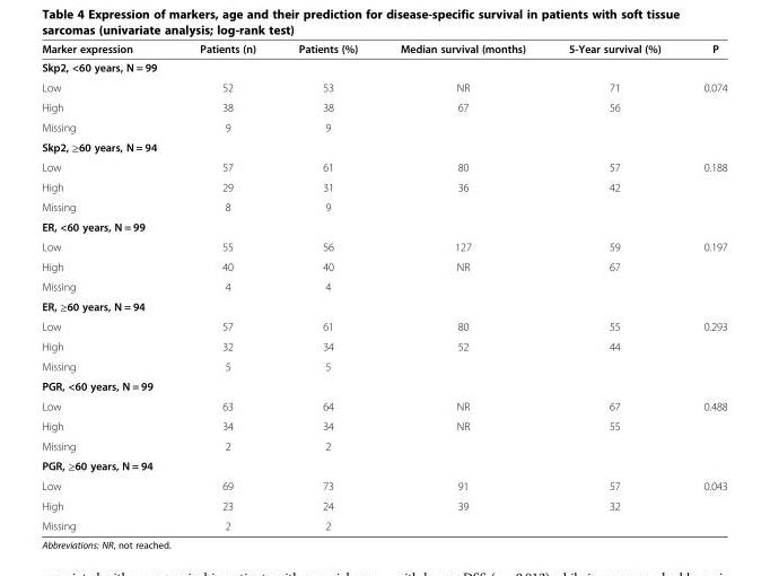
<table><thead><tr><td>Marker expression</td><td>Patients (n)</td><td>Patients (%)</td><td>Median survival (months)</td><td>5-Year survival (%)</td><td>P</td></tr></thead><tbody><tr><td colspan="6">Skp2, &lt;60 years, N = 99</td></tr><tr><td>Low</td><td>52</td><td>53</td><td>NR</td><td>71</td><td>0.074</td></tr><tr><td>High</td><td>38</td><td>38</td><td>67</td><td>56</td><td></td></tr><tr><td>Missing</td><td>9</td><td>9</td><td></td><td></td><td></td></tr><tr><td colspan="6">Skp2, ≥60 years, N = 94</td></tr><tr><td>Low</td><td>57</td><td>61</td><td>80</td><td>57</td><td>0.188</td></tr><tr><td>High</td><td>29</td><td>31</td><td>36</td><td>42</td><td></td></tr><tr><td>Missing</td><td>8</td><td>9</td><td></td><td></td><td></td></tr><tr><td colspan="6">ER, &lt;60 years, N = 99</td></tr><tr><td>Low</td><td>55</td><td>56</td><td>127</td><td>59</td><td>0.197</td></tr><tr><td>High</td><td>40</td><td>40</td><td>NR</td><td>67</td><td></td></tr><tr><td>Missing</td><td>4</td><td>4</td><td></td><td></td><td></td></tr><tr><td colspan="6">ER, ≥60 years, N = 94</td></tr><tr><td>Low</td><td>57</td><td>61</td><td>80</td><td>55</td><td>0.293</td></tr><tr><td>High</td><td>32</td><td>34</td><td>52</td><td>44</td><td></td></tr><tr><td>Missing</td><td>5</td><td>5</td><td></td><td></td><td></td></tr><tr><td colspan="6">PGR, &lt;60 years, N = 99</td></tr><tr><td>Low</td><td>63</td><td>64</td><td>NR</td><td>67</td><td>0.488</td></tr><tr><td>High</td><td>34</td><td>34</td><td>NR</td><td>55</td><td></td></tr><tr><td>Missing</td><td>2</td><td>2</td><td></td><td></td><td></td></tr><tr><td colspan="6">PGR, ≥60 years, N = 94</td></tr><tr><td>Low</td><td>69</td><td>73</td><td>91</td><td>57</td><td>0.043</td></tr><tr><td>High</td><td>23</td><td>24</td><td>39</td><td>32</td><td></td></tr><tr><td>Missing</td><td>2</td><td>2</td><td></td><td></td><td></td></tr></tbody></table>